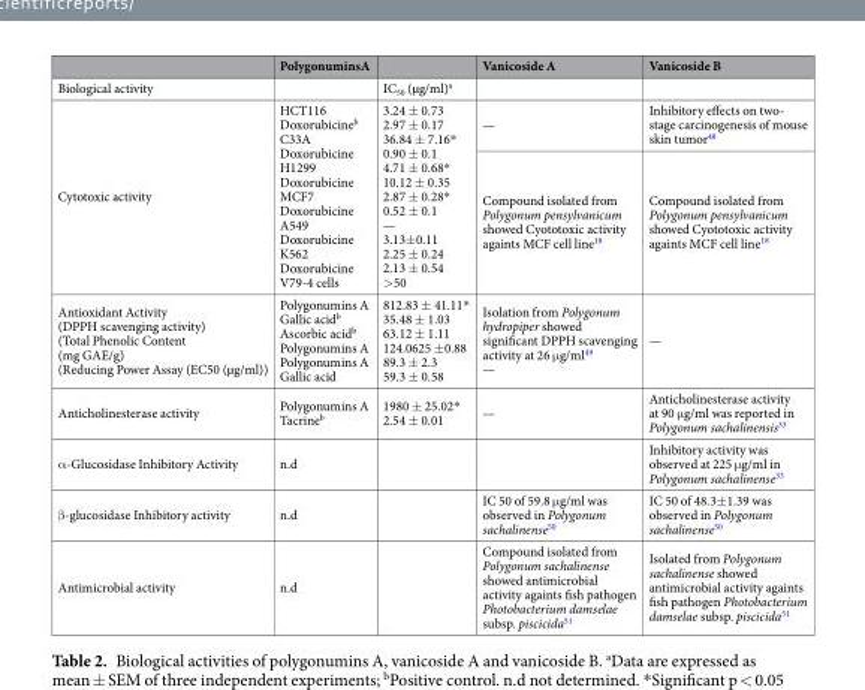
<table><thead><tr><td></td><td>PolygonuminsA</td><td></td><td>Vanicoside A</td><td>Vanicoside B</td></tr></thead><tbody><tr><td>Biological activity</td><td></td><td>IC<sub>50</sub> (µg/ml)<sup>a</sup></td><td></td><td></td></tr><tr><td rowspan="2">Cytotoxic activity</td><td rowspan="2">HCT116 Doxorubicine<sup>b</sup> C33A Doxorubicine H1299 Doxorubicine MCF7 Doxorubicine A549 Doxorubicine K562 Doxorubicine V79-4 cells</td><td rowspan="2">3.24 ± 0.73 2.97 ± 0.17 36.84 ± 7.16* 0.90 ± 0.1 4.71 ± 0.68* 10.12 ± 0.35 2.87 ± 0.28* 0.52 ± 0.1 — 3.13±0.11 2.25 ± 0.24 2.13 ± 0.54 &gt;50</td><td>—</td><td>Inhibitory effects on two- stage carcinogenesis of mouse skin tumor<sup>48</sup></td></tr><tr><td>Compound isolated from Polygonum pensylvanicum showed Cyototoxic activity againts MCF cell line<sup>18</sup></td><td>Compound isolated from Polygonum pensylvanicum showed Cyototoxic activity againts MCF cell line<sup>18</sup></td></tr><tr><td>Antioxidant Activity (DPPH scavenging activity) (Total Phenolic Content (mg GAE/g) (Reducing Power Assay (EC50 (µg/ml))</td><td>Polygonumins A Gallic acid<sup>b</sup> Ascorbic acid<sup>b</sup> Polygonumins A Polygonumins A Gallic acid</td><td>812.83 ± 41.11* 35.48 ± 1.03 63.12 ± 1.11 124.0625 ±0.88 89.3 ± 2.3 59.3 ± 0.58</td><td>Isolation from Polygonum hydropiper showed significant DPPH scavenging activity at 26 μg/ml<sup>49</sup> —</td><td>—</td></tr><tr><td>Anticholinesterase activity</td><td>Polygonumins A Tacrine<sup>b</sup></td><td>1980 ± 25.02* 2.54 ± 0.01</td><td>—</td><td>Anticholinesterase activity at 90 μg/ml was reported in Polygonum sachalinensis<sup>33</sup></td></tr><tr><td>α-Glucosidase Inhibitory Activity</td><td>n.d</td><td></td><td></td><td>Inhibitory activity was observed at 225 μg/ml in Polygonum sachalinense<sup>33</sup></td></tr><tr><td>β-glucosidase Inhibitory activity</td><td>n.d</td><td></td><td>IC 50 of 59.8 μg/ml was observed in Polygonum sachalinense<sup>50</sup></td><td>IC 50 of 48.3±1.39 was observed in Polygonum sachalinense<sup>50</sup></td></tr><tr><td>Antimicrobial activity</td><td>n.d</td><td></td><td>Compound isolated from Polygonum sachalinense showed antimicrobial activity againts fish pathogen Photobacterium damselae subsp. piscicida<sup>51</sup></td><td>Isolated from Polygonum sachalinense showed antimicrobial activity againts fish pathogen Photobacterium damselae subsp. piscicida<sup>51</sup></td></tr></tbody></table>